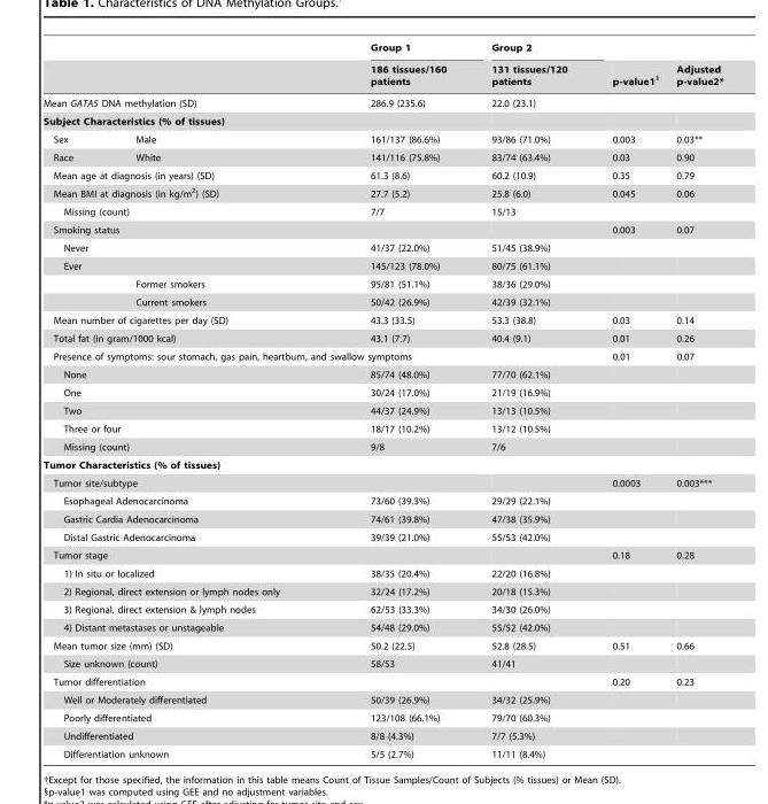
<table><thead><tr><td rowspan="2"></td><td rowspan="2"></td><td rowspan="2">Group 1 186 tissues/160 patients</td><td rowspan="2">Group 2 131 tissues/120 patients</td><td rowspan="2">p-value1§</td><td rowspan="2">Adjusted p-value2*</td></tr><tr></tr></thead><tbody><tr><td colspan="2">Mean GATA5 DNA methylation (SD)</td><td>286.9 (235.6)</td><td>22.0 (23.1)</td><td></td><td></td></tr><tr><td colspan="6">Subject Characteristics (% of tissues)</td></tr><tr><td>Sex</td><td>Male</td><td>161/137 (86.6%)</td><td>93/86 (71.0%)</td><td>0.003</td><td>0.03**</td></tr><tr><td>Race</td><td>White</td><td>141/116 (75.8%)</td><td>83/74 (63.4%)</td><td>0.03</td><td>0.90</td></tr><tr><td colspan="2">Mean age at diagnosis (in years) (SD)</td><td>61.3 (8.6)</td><td>60.2 (10.9)</td><td>0.35</td><td>0.79</td></tr><tr><td colspan="2">Mean BMI at diagnosis (in kg/m<sup>2</sup>) (SD)</td><td>27.7 (5.2)</td><td>25.8 (6.0)</td><td>0.045</td><td>0.06</td></tr><tr><td colspan="2">Missing (count)</td><td>7/7</td><td>15/13</td><td></td><td></td></tr><tr><td colspan="2">Smoking status</td><td></td><td></td><td>0.003</td><td>0.07</td></tr><tr><td colspan="2">Never</td><td>41/37 (22.0%)</td><td>51/45 (38.9%)</td><td></td><td></td></tr><tr><td colspan="2">Ever</td><td>145/123 (78.0%)</td><td>80/75 (61.1%)</td><td></td><td></td></tr><tr><td></td><td>Former smokers</td><td>95/81 (51.1%)</td><td>38/36 (29.0%)</td><td></td><td></td></tr><tr><td></td><td>Current smokers</td><td>50/42 (26.9%)</td><td>42/39 (32.1%)</td><td></td><td></td></tr><tr><td colspan="2">Mean number of cigarettes per day (SD)</td><td>43.3 (33.5)</td><td>53.3 (38.8)</td><td>0.03</td><td>0.14</td></tr><tr><td colspan="2">Total fat (in gram/1000 kcal)</td><td>43.1 (7.7)</td><td>40.4 (9.1)</td><td>0.01</td><td>0.26</td></tr><tr><td colspan="4">Presence of symptoms: sour stomach, gas pain, heartburn, and swallow symptoms</td><td>0.01</td><td>0.07</td></tr><tr><td colspan="2">None</td><td>85/74 (48.0%)</td><td>77/70 (62.1%)</td><td></td><td></td></tr><tr><td colspan="2">One</td><td>30/24 (17.0%)</td><td>21/19 (16.9%)</td><td></td><td></td></tr><tr><td colspan="2">Two</td><td>44/37 (24.9%)</td><td>13/13 (10.5%)</td><td></td><td></td></tr><tr><td colspan="2">Three or four</td><td>18/17 (10.2%)</td><td>13/12 (10.5%)</td><td></td><td></td></tr><tr><td colspan="2">Missing (count)</td><td>9/8</td><td>7/6</td><td></td><td></td></tr><tr><td colspan="6">Tumor Characteristics (% of tissues)</td></tr><tr><td colspan="2">Tumor site/subtype</td><td></td><td></td><td>0.0003</td><td>0.003***</td></tr><tr><td colspan="2">Esophageal Adenocarcinoma</td><td>73/60 (39.3%)</td><td>29/29 (22.1%)</td><td></td><td></td></tr><tr><td colspan="2">Gastric Cardia Adenocarcinoma</td><td>74/61 (39.8%)</td><td>47/38 (35.9%)</td><td></td><td></td></tr><tr><td colspan="2">Distal Gastric Adenocarcinoma</td><td>39/39 (21.0%)</td><td>55/53 (42.0%)</td><td></td><td></td></tr><tr><td colspan="2">Tumor stage</td><td></td><td></td><td>0.18</td><td>0.28</td></tr><tr><td colspan="2">1) In situ or localized</td><td>38/35 (20.4%)</td><td>22/20 (16.8%)</td><td></td><td></td></tr><tr><td colspan="2">2) Regional, direct extension or lymph nodes only</td><td>32/24 (17.2%)</td><td>20/18 (15.3%)</td><td></td><td></td></tr><tr><td colspan="2">3) Regional, direct extension &amp; lymph nodes</td><td>62/53 (33.3%)</td><td>34/30 (26.0%)</td><td></td><td></td></tr><tr><td colspan="2">4) Distant metastases or unstageable</td><td>54/48 (29.0%)</td><td>55/52 (42.0%)</td><td></td><td></td></tr><tr><td colspan="2">Mean tumor size (mm) (SD)</td><td>50.2 (22.5)</td><td>52.8 (28.5)</td><td>0.51</td><td>0.66</td></tr><tr><td colspan="2">Size unknown (count)</td><td>58/53</td><td>41/41</td><td></td><td></td></tr><tr><td colspan="2">Tumor differentiation</td><td></td><td></td><td>0.20</td><td>0.23</td></tr><tr><td colspan="2">Well or Moderately differentiated</td><td>50/39 (26.9%)</td><td>34/32 (25.9%)</td><td></td><td></td></tr><tr><td colspan="2">Poorly differentiated</td><td>123/108 (66.1%)</td><td>79/70 (60.3%)</td><td></td><td></td></tr><tr><td colspan="2">Undifferentiated</td><td>8/8 (4.3%)</td><td>7/7 (5.3%)</td><td></td><td></td></tr><tr><td colspan="2">Differentiation unknown</td><td>5/5 (2.7%)</td><td>11/11 (8.4%)</td><td></td><td></td></tr></tbody></table>